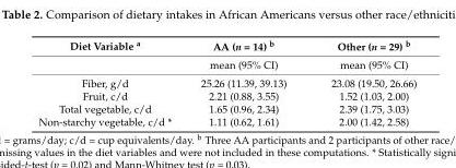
<table><thead><tr><td>Diet Variable <sup>a</sup></td><td>AA (n = 14) <sup>b</sup></td><td>Other (n = 29) <sup>b</sup></td></tr></thead><tbody><tr><td></td><td>mean (95% CI)</td><td>mean (95% CI)</td></tr><tr><td>Fiber, g/d</td><td>25.26 (11.39, 39.13)</td><td>23.08 (19.50, 26.66)</td></tr><tr><td>Fruit, c/d</td><td>2.21 (0.88, 3.55)</td><td>1.52 (1.03, 2.00)</td></tr><tr><td>Total vegetable, c/d</td><td>1.65 (0.96, 2.34)</td><td>2.39 (1.75, 3.03)</td></tr><tr><td>Non-starchy vegetable, c/d *</td><td>1.11 (0.62, 1.61)</td><td>2.00 (1.42, 2.58)</td></tr></tbody></table>